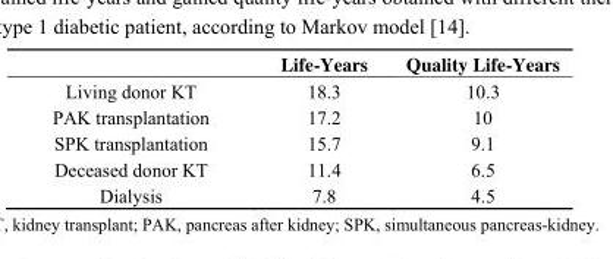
<table><thead><tr><td></td><td>Life-Years</td><td>Quality Life-Years</td></tr></thead><tbody><tr><td>Living donor KT</td><td>18.3</td><td>10.3</td></tr><tr><td>PAK transplantation</td><td>17.2</td><td>10</td></tr><tr><td>SPK transplantation</td><td>15.7</td><td>9.1</td></tr><tr><td>Deceased donor KT</td><td>11.4</td><td>6.5</td></tr><tr><td>Dialysis</td><td>7.8</td><td>4.5</td></tr></tbody></table>